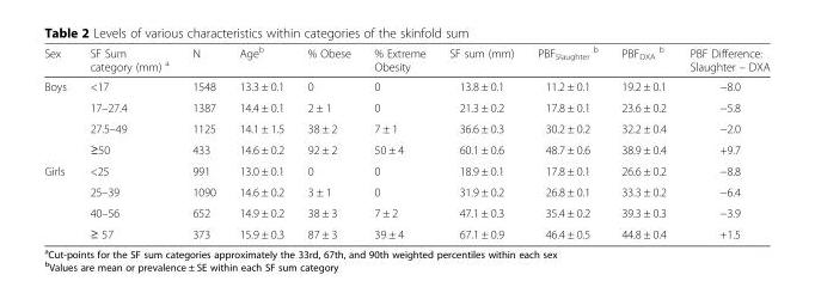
<table><thead><tr><td>Sex</td><td>SF Sum category (mm) <sup>a</sup></td><td>N</td><td>Age<sup>b</sup></td><td>% Obese</td><td>% Extreme Obesity</td><td>SF sum (mm)</td><td>PBF<sub>Slaughter</sub> <sup>b</sup></td><td>PBF<sub>DXA</sub> <sup>b</sup></td><td>PBF Difference: Slaughter – DXA</td></tr></thead><tbody><tr><td rowspan="4">Boys</td><td>&lt;17</td><td>1548</td><td>13.3 ± 0.1</td><td>0</td><td>0</td><td>13.8 ± 0.1</td><td>11.2 ± 0.1</td><td>19.2 ± 0.1</td><td>−8.0</td></tr><tr><td>17–27.4</td><td>1387</td><td>14.4 ± 0.1</td><td>2 ± 1</td><td>0</td><td>21.3 ± 0.2</td><td>17.8 ± 0.1</td><td>23.6 ± 0.2</td><td>−5.8</td></tr><tr><td>27.5–49</td><td>1125</td><td>14.1 ± 1.5</td><td>38 ± 2</td><td>7 ± 1</td><td>36.6 ± 0.3</td><td>30.2 ± 0.2</td><td>32.2 ± 0.4</td><td>−2.0</td></tr><tr><td>≥50</td><td>433</td><td>14.6 ± 0.2</td><td>92 ± 2</td><td>50 ± 4</td><td>60.1 ± 0.6</td><td>48.7 ± 0.6</td><td>38.9 ± 0.4</td><td>+9.7</td></tr><tr><td rowspan="4">Girls</td><td>&lt;25</td><td>991</td><td>13.0 ± 0.1</td><td>0</td><td>0</td><td>18.9 ± 0.1</td><td>17.8 ± 0.1</td><td>26.6 ± 0.2</td><td>−8.8</td></tr><tr><td>25–39</td><td>1090</td><td>14.6 ± 0.2</td><td>3 ± 1</td><td>0</td><td>31.9 ± 0.2</td><td>26.8 ± 0.1</td><td>33.3 ± 0.2</td><td>−6.4</td></tr><tr><td>40–56</td><td>652</td><td>14.9 ± 0.2</td><td>38 ± 3</td><td>7 ± 2</td><td>47.1 ± 0.3</td><td>35.4 ± 0.2</td><td>39.3 ± 0.3</td><td>−3.9</td></tr><tr><td>≥ 57</td><td>373</td><td>15.9 ± 0.3</td><td>87 ± 3</td><td>39 ± 4</td><td>67.1 ± 0.9</td><td>46.4 ± 0.5</td><td>44.8 ± 0.4</td><td>+1.5</td></tr></tbody></table>